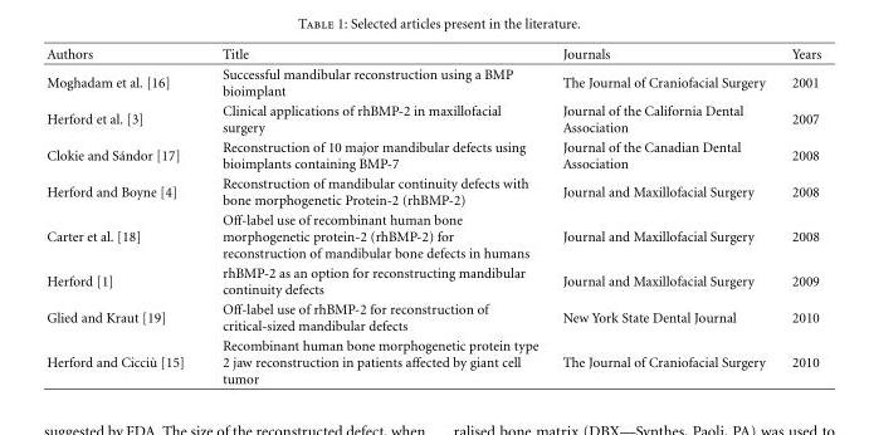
<table><thead><tr><td>Authors</td><td>Title</td><td>Journals</td><td>Years</td></tr></thead><tbody><tr><td>Moghadam et al. [16]</td><td>Successful mandibular reconstruction using a BMP bioimplant</td><td>The Journal of Craniofacial Surgery</td><td>2001</td></tr><tr><td>Herford et al. [3]</td><td>Clinical applications of rhBMP-2 in maxillofacial surgery</td><td>Journal of the California Dental Association</td><td>2007</td></tr><tr><td>Clokie and S´andor [17]</td><td>Reconstruction of 10 major mandibular defects using bioimplants containing BMP-7</td><td>Journal of the Canadian Dental Association</td><td>2008</td></tr><tr><td>Herford and Boyne [4]</td><td>Reconstruction of mandibular continuity defects with bone morphogenetic Protein-2 (rhBMP-2)</td><td>Journal and Maxillofacial Surgery</td><td>2008</td></tr><tr><td>Carter et al. [18]</td><td>Off-label use of recombinant human bone morphogenetic protein-2 (rhBMP-2) for reconstruction of mandibular bone defects in humans</td><td>Journal and Maxillofacial Surgery</td><td>2008</td></tr><tr><td>Herford [1]</td><td>rhBMP-2 as an option for reconstructing mandibular continuity defects</td><td>Journal and Maxillofacial Surgery</td><td>2009</td></tr><tr><td>Glied and Kraut [19]</td><td>Off-label use of rhBMP-2 for reconstruction of critical-sized mandibular defects</td><td>New York State Dental Journal</td><td>2010</td></tr><tr><td>Herford and Cicci`u [15]</td><td>Recombinant human bone morphogenetic protein type 2 jaw reconstruction in patients affected by giant cell tumor</td><td>The Journal of Craniofacial Surgery</td><td>2010</td></tr></tbody></table>